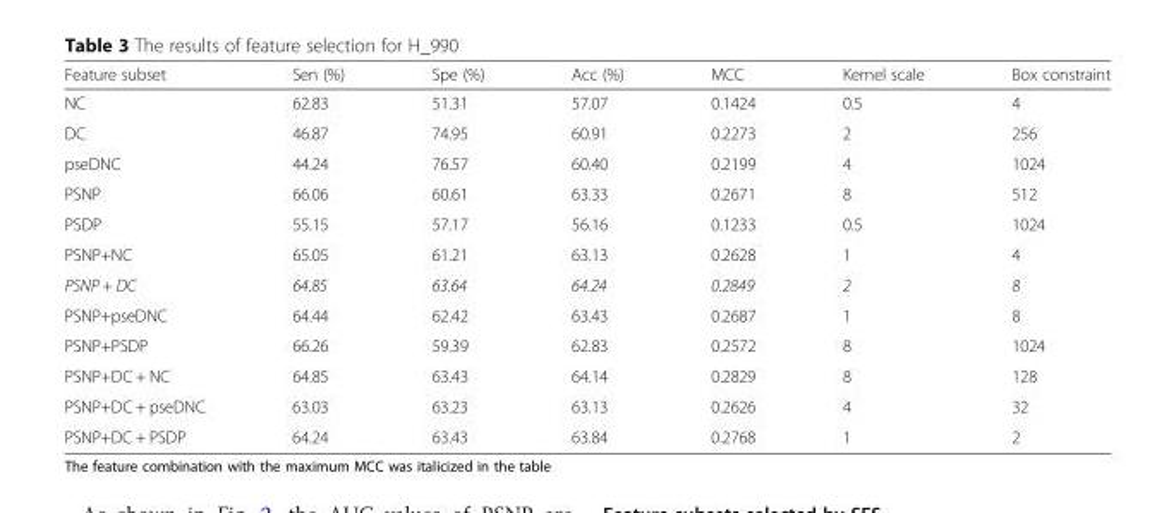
<table><thead><tr><td>Feature subset</td><td>Sen (%)</td><td>Spe (%)</td><td>Acc (%)</td><td>MCC</td><td>Kernel scale</td><td>Box constraint</td></tr></thead><tbody><tr><td>NC</td><td>62.83</td><td>51.31</td><td>57.07</td><td>0.1424</td><td>0.5</td><td>4</td></tr><tr><td>DC</td><td>46.87</td><td>74.95</td><td>60.91</td><td>0.2273</td><td>2</td><td>256</td></tr><tr><td>pseDNC</td><td>44.24</td><td>76.57</td><td>60.40</td><td>0.2199</td><td>4</td><td>1024</td></tr><tr><td>PSNP</td><td>66.06</td><td>60.61</td><td>63.33</td><td>0.2671</td><td>8</td><td>512</td></tr><tr><td>PSDP</td><td>55.15</td><td>57.17</td><td>56.16</td><td>0.1233</td><td>0.5</td><td>1024</td></tr><tr><td>PSNP+NC</td><td>65.05</td><td>61.21</td><td>63.13</td><td>0.2628</td><td>1</td><td>4</td></tr><tr><td>PSNP + DC</td><td>64.85</td><td>63.64</td><td>64.24</td><td>0.2849</td><td>2</td><td>8</td></tr><tr><td>PSNP+pseDNC</td><td>64.44</td><td>62.42</td><td>63.43</td><td>0.2687</td><td>1</td><td>8</td></tr><tr><td>PSNP+PSDP</td><td>66.26</td><td>59.39</td><td>62.83</td><td>0.2572</td><td>8</td><td>1024</td></tr><tr><td>PSNP+DC + NC</td><td>64.85</td><td>63.43</td><td>64.14</td><td>0.2829</td><td>8</td><td>128</td></tr><tr><td>PSNP+DC + pseDNC</td><td>63.03</td><td>63.23</td><td>63.13</td><td>0.2626</td><td>4</td><td>32</td></tr><tr><td>PSNP+DC + PSDP</td><td>64.24</td><td>63.43</td><td>63.84</td><td>0.2768</td><td>1</td><td>2</td></tr></tbody></table>